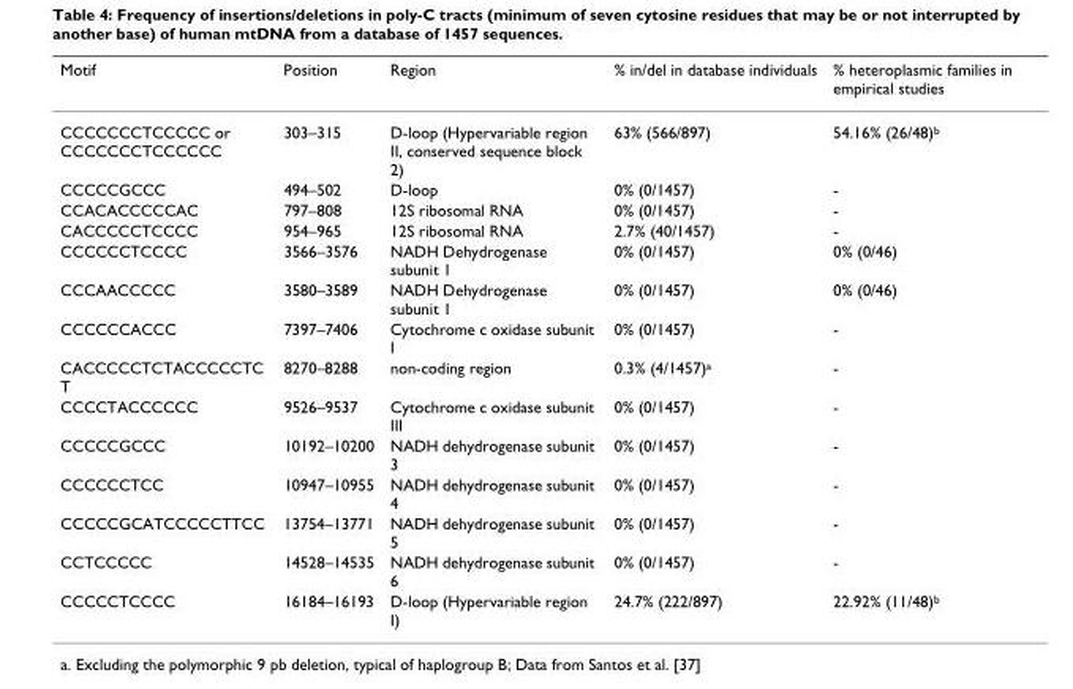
<table><thead><tr><td>Motif</td><td>Position</td><td>Region</td><td>% in/del in database individuals</td><td>% heteroplasmic families in empirical studies</td></tr></thead><tbody><tr><td>CCCCCCCTCCCCC or CCCCCCCTCCCCCC</td><td>303–315</td><td>D-loop (Hypervariable region II, conserved sequence block 2)</td><td>63% (566/897)</td><td>54.16% (26/48)<sup>b</sup></td></tr><tr><td>CCCCCGCCC</td><td>494–502</td><td>D-loop</td><td>0% (0/1457)</td><td>-</td></tr><tr><td>CCACACCCCCAC</td><td>797–808</td><td>12S ribosomal RNA</td><td>0% (0/1457)</td><td>-</td></tr><tr><td>CACCCCCTCCCC</td><td>954–965</td><td>12S ribosomal RNA</td><td>2.7% (40/1457)</td><td>-</td></tr><tr><td>CCCCCCTCCCC</td><td>3566–3576</td><td>NADH Dehydrogenase subunit 1</td><td>0% (0/1457)</td><td>0% (0/46)</td></tr><tr><td>CCCAACCCCC</td><td>3580–3589</td><td>NADH Dehydrogenase subunit 1</td><td>0% (0/1457)</td><td>0% (0/46)</td></tr><tr><td>CCCCCCACCC</td><td>7397–7406</td><td>Cytochrome c oxidase subunit I</td><td>0% (0/1457)</td><td>-</td></tr><tr><td>CACCCCCTCTACCCCCTC T</td><td>8270–8288</td><td>non-coding region</td><td>0.3% (4/1457)<sup>a</sup></td><td>-</td></tr><tr><td>CCCCTACCCCCC</td><td>9526–9537</td><td>Cytochrome c oxidase subunit III</td><td>0% (0/1457)</td><td>-</td></tr><tr><td>CCCCCGCCC</td><td>10192–10200</td><td>NADH dehydrogenase subunit 3</td><td>0% (0/1457)</td><td>-</td></tr><tr><td>CCCCCCTCC</td><td>10947–10955</td><td>NADH dehydrogenase subunit 4</td><td>0% (0/1457)</td><td>-</td></tr><tr><td>CCCCCGCATCCCCCTTCC</td><td>13754–13771</td><td>NADH dehydrogenase subunit 5</td><td>0% (0/1457)</td><td>-</td></tr><tr><td>CCTCCCCC</td><td>14528–14535</td><td>NADH dehydrogenase subunit 6</td><td>0% (0/1457)</td><td>-</td></tr><tr><td>CCCCCTCCCC</td><td>16184–16193</td><td>D-loop (Hypervariable region I)</td><td>24.7% (222/897)</td><td>22.92% (11/48)<sup>b</sup></td></tr></tbody></table>